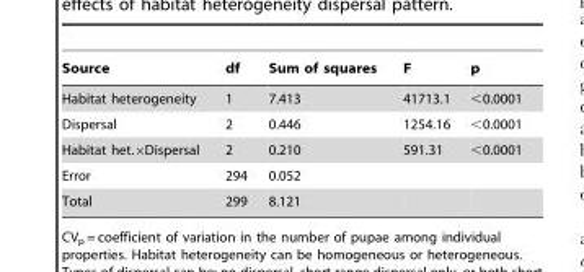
<table><thead><tr><td>Source</td><td>df</td><td>Sum of squares</td><td>F</td><td>p</td></tr></thead><tbody><tr><td>Habitat heterogeneity</td><td>1</td><td>7.413</td><td>41713.1</td><td>&lt;0.0001</td></tr><tr><td>Dispersal</td><td>2</td><td>0.446</td><td>1254.16</td><td>&lt;0.0001</td></tr><tr><td>Habitat het.×Dispersal</td><td>2</td><td>0.210</td><td>591.31</td><td>&lt;0.0001</td></tr><tr><td>Error</td><td>294</td><td>0.052</td><td></td><td></td></tr><tr><td>Total</td><td>299</td><td>8.121</td><td></td><td></td></tr></tbody></table>